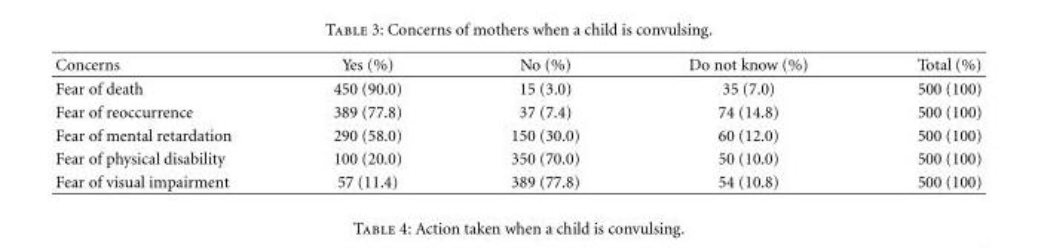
<table><thead><tr><td>Concerns</td><td>Yes (%)</td><td>No (%)</td><td>Do not know (%)</td><td>Total (%)</td></tr></thead><tbody><tr><td>Fear of death</td><td>450 (90.0)</td><td>15 (3.0)</td><td>35 (7.0)</td><td>500 (100)</td></tr><tr><td>Fear of reoccurrence</td><td>389 (77.8)</td><td>37 (7.4)</td><td>74 (14.8)</td><td>500 (100)</td></tr><tr><td>Fear of mental retardation</td><td>290 (58.0)</td><td>150 (30.0)</td><td>60 (12.0)</td><td>500 (100)</td></tr><tr><td>Fear of physical disability</td><td>100 (20.0)</td><td>350 (70.0)</td><td>50 (10.0)</td><td>500 (100)</td></tr><tr><td>Fear of visual impairment</td><td>57 (11.4)</td><td>389 (77.8)</td><td>54 (10.8)</td><td>500 (100)</td></tr></tbody></table>